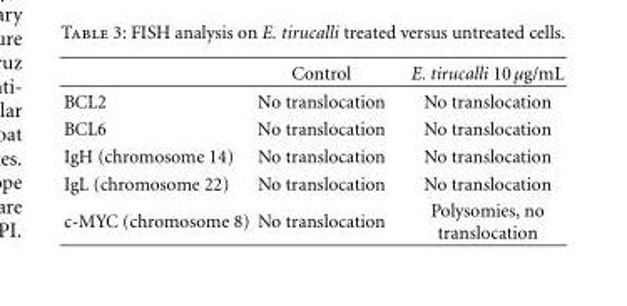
<table><thead><tr><td></td><td>Control</td><td>E. tirucalli 10 μg/mL</td></tr></thead><tbody><tr><td>BCL2</td><td>No translocation</td><td>No translocation</td></tr><tr><td>BCL6</td><td>No translocation</td><td>No translocation</td></tr><tr><td>IgH (chromosome 14)</td><td>No translocation</td><td>No translocation</td></tr><tr><td>IgL (chromosome 22)</td><td>No translocation</td><td>No translocation</td></tr><tr><td>c-MYC (chromosome 8)</td><td>No translocation</td><td>Polysomies, no translocation</td></tr></tbody></table>